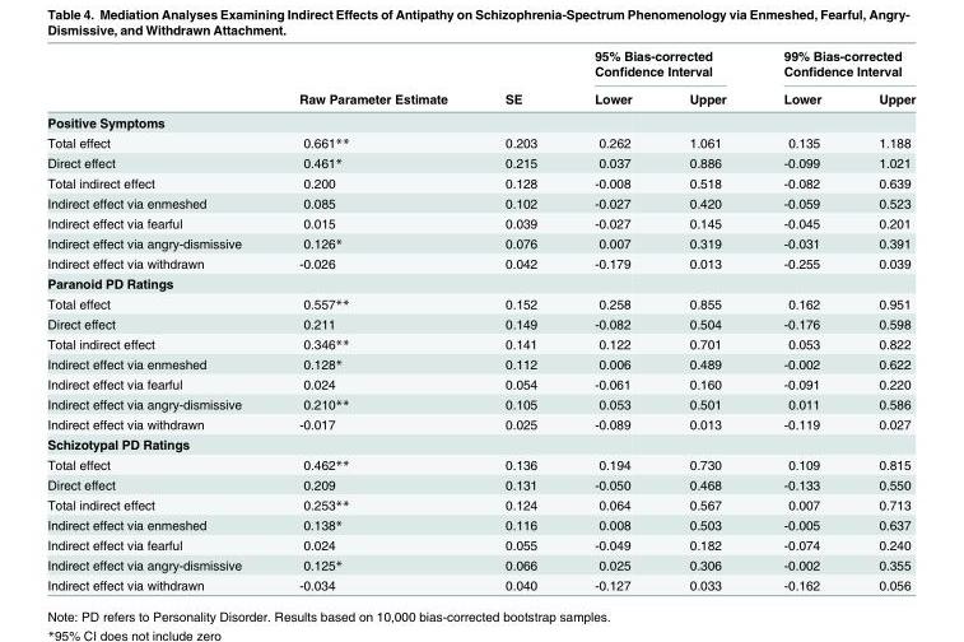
<table><thead><tr><td rowspan="2"></td><td rowspan="2">Raw Parameter Estimate</td><td rowspan="2">SE</td><td colspan="2">95% Bias-corrected Confidence Interval</td><td colspan="2">99% Bias-corrected Confidence Interval</td></tr><tr><td>Lower</td><td>Upper</td><td>Lower</td><td>Upper</td></tr></thead><tbody><tr><td colspan="7">Positive Symptoms</td></tr><tr><td>Total effect</td><td>0.661**</td><td>0.203</td><td>0.262</td><td>1.061</td><td>0.135</td><td>1.188</td></tr><tr><td>Direct effect</td><td>0.461*</td><td>0.215</td><td>0.037</td><td>0.886</td><td>-0.099</td><td>1.021</td></tr><tr><td>Total indirect effect</td><td>0.200</td><td>0.128</td><td>-0.008</td><td>0.518</td><td>-0.082</td><td>0.639</td></tr><tr><td>Indirect effect via enmeshed</td><td>0.085</td><td>0.102</td><td>-0.027</td><td>0.420</td><td>-0.059</td><td>0.523</td></tr><tr><td>Indirect effect via fearful</td><td>0.015</td><td>0.039</td><td>-0.027</td><td>0.145</td><td>-0.045</td><td>0.201</td></tr><tr><td>Indirect effect via angry-dismissive</td><td>0.126*</td><td>0.076</td><td>0.007</td><td>0.319</td><td>-0.031</td><td>0.391</td></tr><tr><td>Indirect effect via withdrawn</td><td>-0.026</td><td>0.042</td><td>-0.179</td><td>0.013</td><td>-0.255</td><td>0.039</td></tr><tr><td colspan="7">Paranoid PD Ratings</td></tr><tr><td>Total effect</td><td>0.557**</td><td>0.152</td><td>0.258</td><td>0.855</td><td>0.162</td><td>0.951</td></tr><tr><td>Direct effect</td><td>0.211</td><td>0.149</td><td>-0.082</td><td>0.504</td><td>-0.176</td><td>0.598</td></tr><tr><td>Total indirect effect</td><td>0.346**</td><td>0.141</td><td>0.122</td><td>0.701</td><td>0.053</td><td>0.822</td></tr><tr><td>Indirect effect via enmeshed</td><td>0.128*</td><td>0.112</td><td>0.006</td><td>0.489</td><td>-0.002</td><td>0.622</td></tr><tr><td>Indirect effect via fearful</td><td>0.024</td><td>0.054</td><td>-0.061</td><td>0.160</td><td>-0.091</td><td>0.220</td></tr><tr><td>Indirect effect via angry-dismissive</td><td>0.210**</td><td>0.105</td><td>0.053</td><td>0.501</td><td>0.011</td><td>0.586</td></tr><tr><td>Indirect effect via withdrawn</td><td>-0.017</td><td>0.025</td><td>-0.089</td><td>0.013</td><td>-0.119</td><td>0.027</td></tr><tr><td colspan="7">Schizotypal PD Ratings</td></tr><tr><td>Total effect</td><td>0.462**</td><td>0.136</td><td>0.194</td><td>0.730</td><td>0.109</td><td>0.815</td></tr><tr><td>Direct effect</td><td>0.209</td><td>0.131</td><td>-0.050</td><td>0.468</td><td>-0.133</td><td>0.550</td></tr><tr><td>Total indirect effect</td><td>0.253**</td><td>0.124</td><td>0.064</td><td>0.567</td><td>0.007</td><td>0.713</td></tr><tr><td>Indirect effect via enmeshed</td><td>0.138*</td><td>0.116</td><td>0.008</td><td>0.503</td><td>-0.005</td><td>0.637</td></tr><tr><td>Indirect effect via fearful</td><td>0.024</td><td>0.055</td><td>-0.049</td><td>0.182</td><td>-0.074</td><td>0.240</td></tr><tr><td>Indirect effect via angry-dismissive</td><td>0.125*</td><td>0.066</td><td>0.025</td><td>0.306</td><td>-0.002</td><td>0.355</td></tr><tr><td>Indirect effect via withdrawn</td><td>-0.034</td><td>0.040</td><td>-0.127</td><td>0.033</td><td>-0.162</td><td>0.056</td></tr></tbody></table>